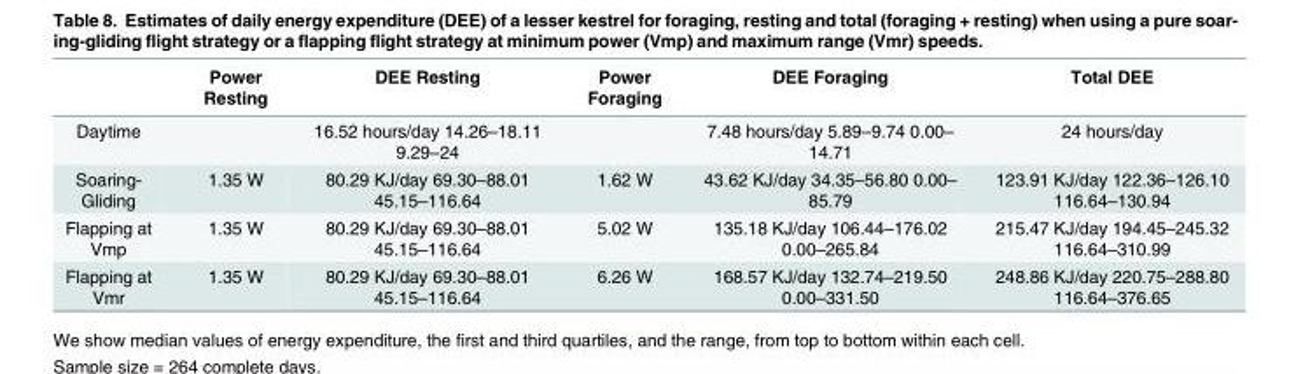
<table><thead><tr><td></td><td>Power Resting</td><td>DEE Resting</td><td>Power Foraging</td><td>DEE Foraging</td><td>Total DEE</td></tr></thead><tbody><tr><td>Daytime</td><td></td><td>16.52 hours/day 14.26–18.11 9.29–24</td><td></td><td>7.48 hours/day 5.89–9.74 0.00– 14.71</td><td>24 hours/day</td></tr><tr><td>Soaring- Gliding</td><td>1.35 W</td><td>80.29 KJ/day 69.30–88.01 45.15–116.64</td><td>1.62 W</td><td>43.62 KJ/day 34.35–56.80 0.00– 85.79</td><td>123.91 KJ/day 122.36–126.10 116.64–130.94</td></tr><tr><td>Flapping at Vmp</td><td>1.35 W</td><td>80.29 KJ/day 69.30–88.01 45.15–116.64</td><td>5.02 W</td><td>135.18 KJ/day 106.44–176.02 0.00–265.84</td><td>215.47 KJ/day 194.45–245.32 116.64–310.99</td></tr><tr><td>Flapping at Vmr</td><td>1.35 W</td><td>80.29 KJ/day 69.30–88.01 45.15–116.64</td><td>6.26 W</td><td>168.57 KJ/day 132.74–219.50 0.00–331.50</td><td>248.86 KJ/day 220.75–288.80 116.64–376.65</td></tr></tbody></table>